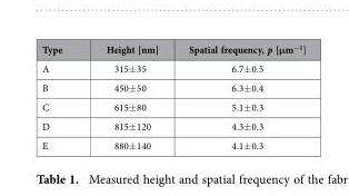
<table><thead><tr><td>Type</td><td>Height [nm]</td><td>Spatial frequency, p [μm−1]</td></tr></thead><tbody><tr><td>A</td><td>315± 35</td><td>6.7± 0.5</td></tr><tr><td>B</td><td>450± 50</td><td>6.3± 0.4</td></tr><tr><td>C</td><td>615± 80</td><td>5.1± 0.3</td></tr><tr><td>D</td><td>815± 120</td><td>4.3± 0.3</td></tr><tr><td>E</td><td>880± 140</td><td>4.1± 0.3</td></tr></tbody></table>